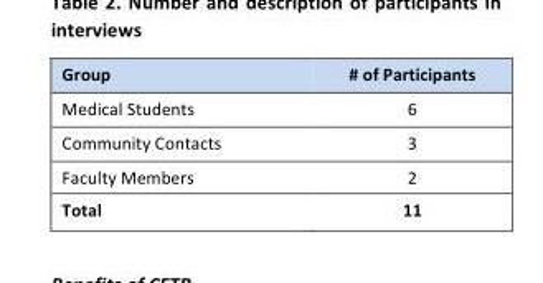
<table><thead><tr><td>Group</td><td># of Participants</td></tr></thead><tbody><tr><td>Medical Students</td><td>6</td></tr><tr><td>Community Contacts</td><td>3</td></tr><tr><td>Faculty Members</td><td>2</td></tr><tr><td>Total</td><td>11</td></tr></tbody></table>